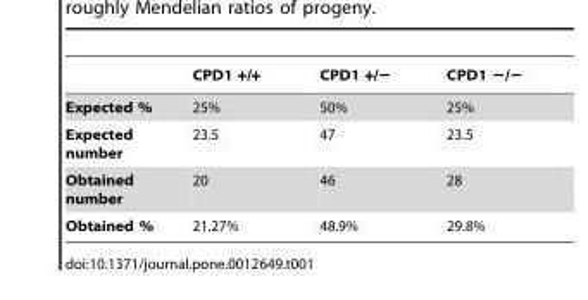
<table><thead><tr><td></td><td>CPD1 +/+</td><td>CPD1 +/−</td><td>CPD1 −/−</td></tr></thead><tbody><tr><td>Expected %</td><td>25%</td><td>50%</td><td>25%</td></tr><tr><td>Expected number</td><td>23.5</td><td>47</td><td>23.5</td></tr><tr><td>Obtained number</td><td>20</td><td>46</td><td>28</td></tr><tr><td>Obtained %</td><td>21.27%</td><td>48.9%</td><td>29.8%</td></tr></tbody></table>